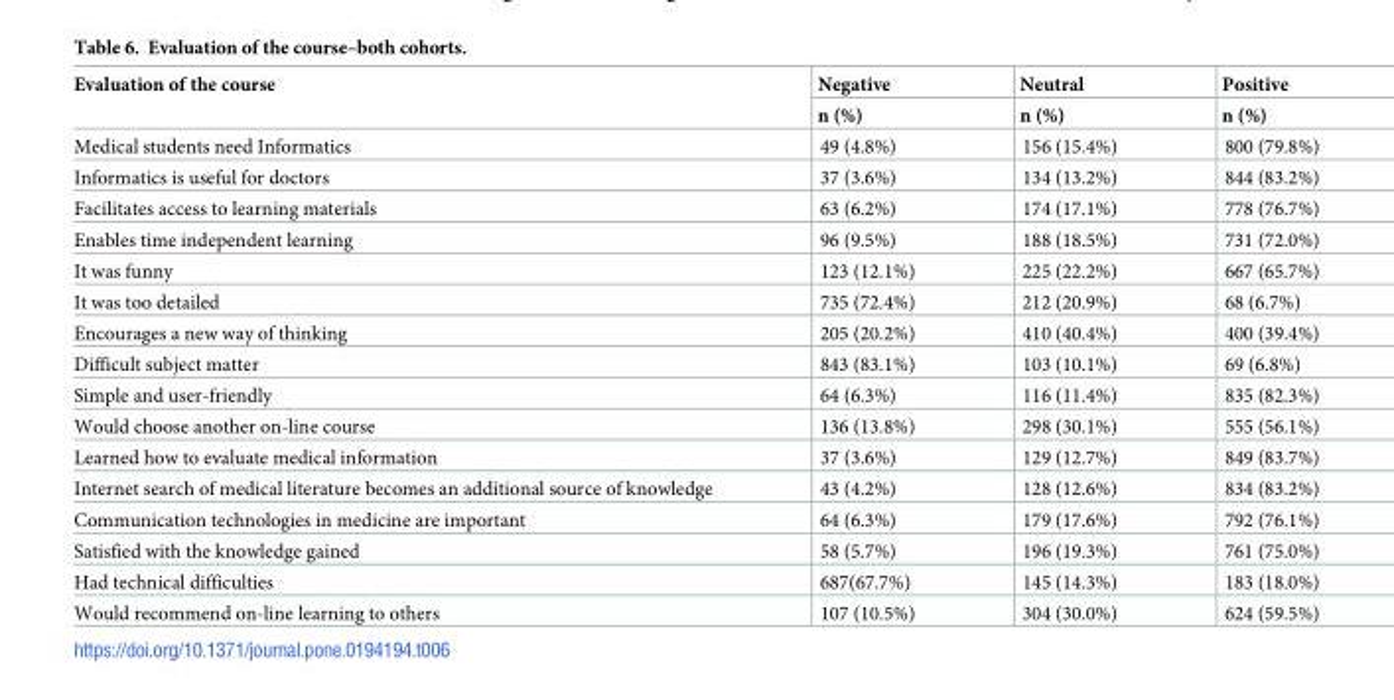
<table><thead><tr><td rowspan="2">Evaluation of the course</td><td rowspan="2">Negative n (%)</td><td rowspan="2">Neutral n (%)</td><td rowspan="2">Positive n (%)</td></tr><tr></tr></thead><tbody><tr><td>Medical students need Informatics</td><td>49 (4.8%)</td><td>156 (15.4%)</td><td>800 (79.8%)</td></tr><tr><td>Informatics is useful for doctors</td><td>37 (3.6%)</td><td>134 (13.2%)</td><td>844 (83.2%)</td></tr><tr><td>Facilitates access to learning materials</td><td>63 (6.2%)</td><td>174 (17.1%)</td><td>778 (76.7%)</td></tr><tr><td>Enables time independent learning</td><td>96 (9.5%)</td><td>188 (18.5%)</td><td>731 (72.0%)</td></tr><tr><td>It was funny</td><td>123 (12.1%)</td><td>225 (22.2%)</td><td>667 (65.7%)</td></tr><tr><td>It was too detailed</td><td>735 (72.4%)</td><td>212 (20.9%)</td><td>68 (6.7%)</td></tr><tr><td>Encourages a new way of thinking</td><td>205 (20.2%)</td><td>410 (40.4%)</td><td>400 (39.4%)</td></tr><tr><td>Difficult subject matter</td><td>843 (83.1%)</td><td>103 (10.1%)</td><td>69 (6.8%)</td></tr><tr><td>Simple and user-friendly</td><td>64 (6.3%)</td><td>116 (11.4%)</td><td>835 (82.3%)</td></tr><tr><td>Would choose another on-line course</td><td>136 (13.8%)</td><td>298 (30.1%)</td><td>555 (56.1%)</td></tr><tr><td>Learned how to evaluate medical information</td><td>37 (3.6%)</td><td>129 (12.7%)</td><td>849 (83.7%)</td></tr><tr><td>Internet search of medical literature becomes an additional source of knowledge</td><td>43 (4.2%)</td><td>128 (12.6%)</td><td>834 (83.2%)</td></tr><tr><td>Communication technologies in medicine are important</td><td>64 (6.3%)</td><td>179 (17.6%)</td><td>792 (76.1%)</td></tr><tr><td>Satisfied with the knowledge gained</td><td>58 (5.7%)</td><td>196 (19.3%)</td><td>761 (75.0%)</td></tr><tr><td>Had technical difficulties</td><td>687(67.7%)</td><td>145 (14.3%)</td><td>183 (18.0%)</td></tr><tr><td>Would recommend on-line learning to others</td><td>107 (10.5%)</td><td>304 (30.0%)</td><td>624 (59.5%)</td></tr></tbody></table>